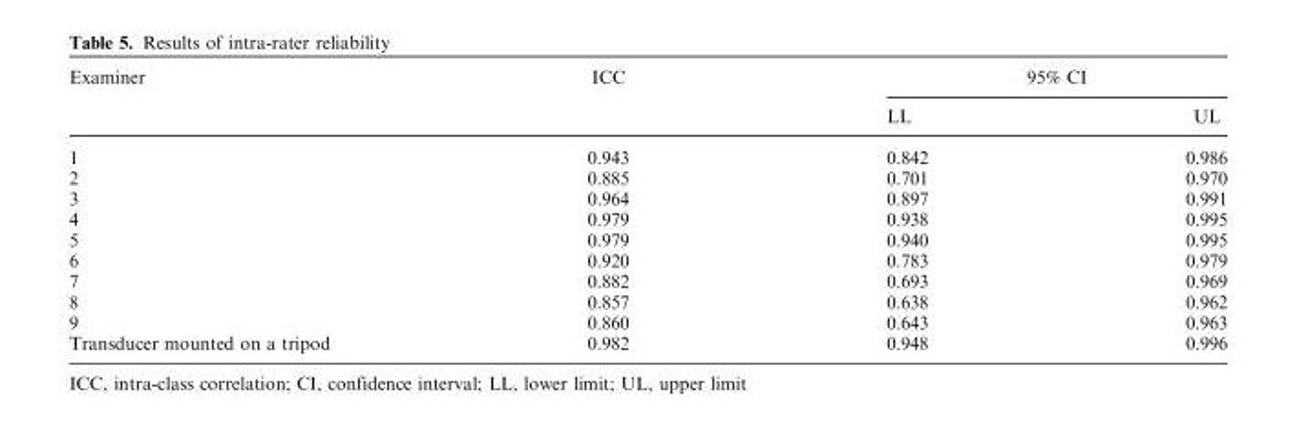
<table><thead><tr><td rowspan="2">Examiner</td><td rowspan="2">ICC</td><td colspan="2">95% CI</td></tr><tr><td>LL</td><td>UL</td></tr></thead><tbody><tr><td>1</td><td>0.943</td><td>0.842</td><td>0.986</td></tr><tr><td>2</td><td>0.885</td><td>0.701</td><td>0.970</td></tr><tr><td>3</td><td>0.964</td><td>0.897</td><td>0.991</td></tr><tr><td>4</td><td>0.979</td><td>0.938</td><td>0.995</td></tr><tr><td>5</td><td>0.979</td><td>0.940</td><td>0.995</td></tr><tr><td>6</td><td>0.920</td><td>0.783</td><td>0.979</td></tr><tr><td>7</td><td>0.882</td><td>0.693</td><td>0.969</td></tr><tr><td>8</td><td>0.857</td><td>0.638</td><td>0.962</td></tr><tr><td>9</td><td>0.860</td><td>0.643</td><td>0.963</td></tr><tr><td>Transducer mounted on a tripod</td><td>0.982</td><td>0.948</td><td>0.996</td></tr></tbody></table>